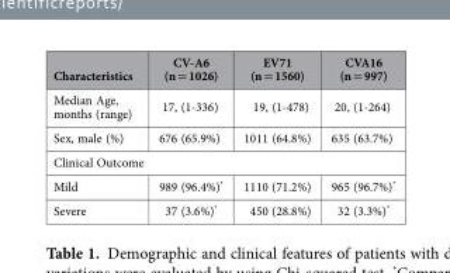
<table><thead><tr><td>Characteristics</td><td>CV-A6 (n = 1026)</td><td>EV71 (n = 1560)</td><td>CVA16 (n = 997)</td></tr></thead><tbody><tr><td>Median Age, months (range)</td><td>17, (1-336)</td><td>19, (1-478)</td><td>20, (1-264)</td></tr><tr><td>Sex, male (%)</td><td>676 (65.9%)</td><td>1011 (64.8%)</td><td>635 (63.7%)</td></tr><tr><td colspan="4">Clinical Outcome</td></tr><tr><td>Mild</td><td>989 (96.4%)*</td><td>1110 (71.2%)</td><td>965 (96.7%)*</td></tr><tr><td>Severe</td><td>37 (3.6%)*</td><td>450 (28.8%)</td><td>32 (3.3%)*</td></tr></tbody></table>